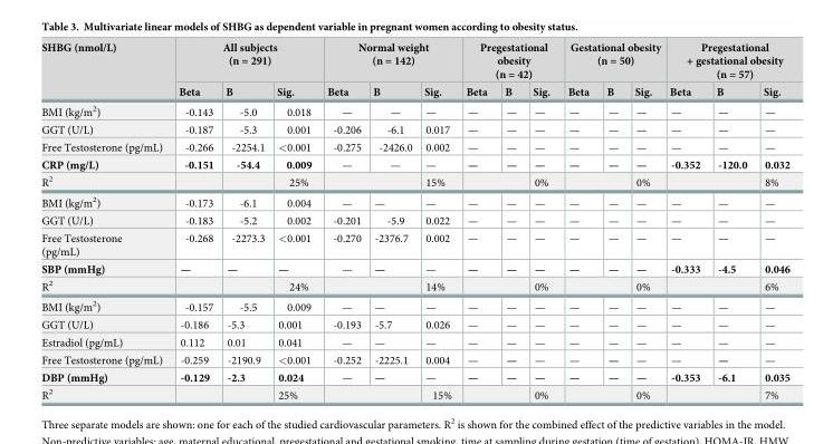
<table><thead><tr><td rowspan="2">SHBG (nmol/L)</td><td colspan="3">All subjects (n = 291)</td><td colspan="3">Normal weight (n = 142)</td><td colspan="3">Pregestational obesity (n = 42)</td><td colspan="3">Gestational obesity (n = 50)</td><td colspan="3">Pregestational + gestational obesity (n = 57)</td></tr><tr><td>Beta</td><td>B</td><td>Sig.</td><td>Beta</td><td>B</td><td>Sig.</td><td>Beta</td><td>B</td><td>Sig.</td><td>Beta</td><td>B</td><td>Sig.</td><td>Beta</td><td>B</td><td>Sig.</td></tr></thead><tbody><tr><td>BMI (kg/m<sup>2</sup>)</td><td>-0.143</td><td>-5.0</td><td>0.018</td><td>—</td><td>—</td><td>—</td><td>—</td><td>—</td><td>—</td><td>—</td><td>—</td><td>—</td><td>—</td><td>—</td><td>—</td></tr><tr><td>GGT (U/L)</td><td>-0.187</td><td>-5.3</td><td>0.001</td><td>-0.206</td><td>-6.1</td><td>0.017</td><td>—</td><td>—</td><td>—</td><td>—</td><td>—</td><td>—</td><td>—</td><td>—</td><td>—</td></tr><tr><td>Free Testosterone (pg/mL)</td><td>-0.266</td><td>-2254.1</td><td>&lt;0.001</td><td>-0.275</td><td>-2426.0</td><td>0.002</td><td>—</td><td>—</td><td>—</td><td>—</td><td>—</td><td>—</td><td>—</td><td>—</td><td>—</td></tr><tr><td>CRP (mg/L)</td><td>-0.151</td><td>-54.4</td><td>0.009</td><td>—</td><td>—</td><td>—</td><td>—</td><td>—</td><td>—</td><td>—</td><td>—</td><td>—</td><td>-0.352</td><td>-120.0</td><td>0.032</td></tr><tr><td>R<sup>2</sup></td><td></td><td></td><td>25%</td><td colspan="2"></td><td>15%</td><td colspan="2"></td><td>0%</td><td colspan="2"></td><td>0%</td><td colspan="2"></td><td>8%</td></tr><tr><td>BMI (kg/m<sup>2</sup>)</td><td>-0.173</td><td>-6.1</td><td>0.004</td><td>—</td><td>—</td><td>—</td><td>—</td><td>—</td><td>—</td><td>—</td><td>—</td><td>—</td><td>—</td><td>—</td><td>—</td></tr><tr><td>GGT (U/L)</td><td>-0.183</td><td>-5.2</td><td>0.002</td><td>-0.201</td><td>-5.9</td><td>0.022</td><td>—</td><td>—</td><td>—</td><td>—</td><td>—</td><td>—</td><td>—</td><td>—</td><td>—</td></tr><tr><td>Free Testosterone (pg/mL)</td><td>-0.268</td><td>-2273.3</td><td>&lt;0.001</td><td>-0.270</td><td>-2376.7</td><td>0.002</td><td>—</td><td>—</td><td>—</td><td>—</td><td>—</td><td>—</td><td>—</td><td>—</td><td>—</td></tr><tr><td>SBP (mmHg)</td><td>—</td><td>—</td><td>—</td><td>—</td><td>—</td><td>—</td><td>—</td><td>—</td><td>—</td><td>—</td><td>—</td><td>—</td><td>-0.333</td><td>-4.5</td><td>0.046</td></tr><tr><td>R<sup>2</sup></td><td></td><td></td><td>24%</td><td colspan="2"></td><td>14%</td><td colspan="2"></td><td>0%</td><td colspan="2"></td><td>0%</td><td colspan="2"></td><td>6%</td></tr><tr><td>BMI (kg/m<sup>2</sup>)</td><td>-0.157</td><td>-5.5</td><td>0.009</td><td>—</td><td>—</td><td>—</td><td>—</td><td>—</td><td>—</td><td>—</td><td>—</td><td>—</td><td>—</td><td>—</td><td>—</td></tr><tr><td>GGT (U/L)</td><td>-0.186</td><td>-5.3</td><td>0.001</td><td>-0.193</td><td>-5.7</td><td>0.026</td><td>—</td><td>—</td><td>—</td><td>—</td><td>—</td><td>—</td><td>—</td><td>—</td><td>—</td></tr><tr><td>Estradiol (pg/mL)</td><td>0.112</td><td>0.01</td><td>0.041</td><td>—</td><td>—</td><td>—</td><td>—</td><td>—</td><td>—</td><td>—</td><td>—</td><td>—</td><td>—</td><td>—</td><td>—</td></tr><tr><td>Free Testosterone (pg/mL)</td><td>-0.259</td><td>-2190.9</td><td>&lt;0.001</td><td>-0.252</td><td>-2225.1</td><td>0.004</td><td>—</td><td>—</td><td>—</td><td>—</td><td>—</td><td>—</td><td>—</td><td>—</td><td>—</td></tr><tr><td>DBP (mmHg)</td><td>-0.129</td><td>-2.3</td><td>0.024</td><td>—</td><td>—</td><td>—</td><td>—</td><td>—</td><td>—</td><td>—</td><td>—</td><td>—</td><td>-0.353</td><td>-6.1</td><td>0.035</td></tr><tr><td>R<sup>2</sup></td><td></td><td></td><td>25%</td><td colspan="2"></td><td>15%</td><td colspan="2"></td><td>0%</td><td colspan="2"></td><td>0%</td><td colspan="2"></td><td>7%</td></tr></tbody></table>